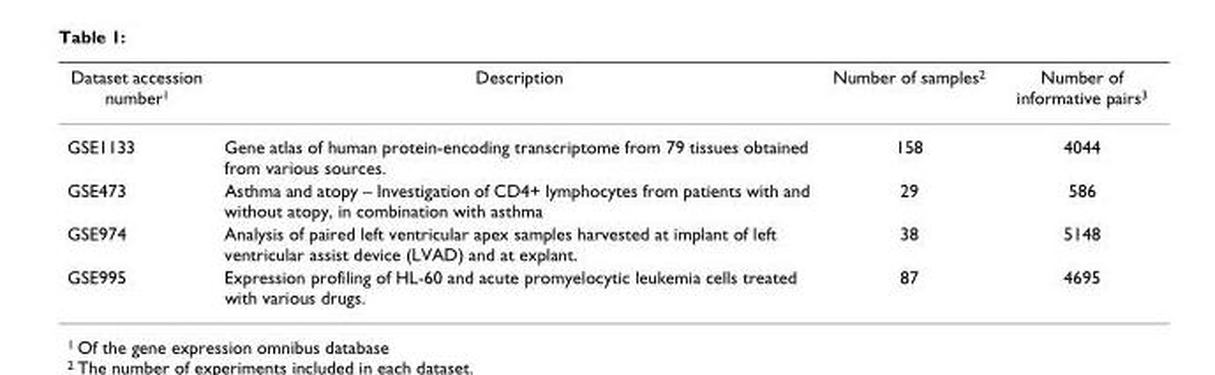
<table><thead><tr><td>Dataset accession number1</td><td>Description</td><td>Number of samples2</td><td>Number of informative pairs3</td></tr></thead><tbody><tr><td>GSE1133</td><td>Gene atlas of human protein-encoding transcriptome from 79 tissues obtained from various sources.</td><td>158</td><td>4044</td></tr><tr><td>GSE473</td><td>Asthma and atopy – Investigation of CD4+ lymphocytes from patients with and without atopy, in combination with asthma</td><td>29</td><td>586</td></tr><tr><td>GSE974</td><td>Analysis of paired left ventricular apex samples harvested at implant of left ventricular assist device (LVAD) and at explant.</td><td>38</td><td>5148</td></tr><tr><td>GSE995</td><td>Expression profiling of HL-60 and acute promyelocytic leukemia cells treated with various drugs.</td><td>87</td><td>4695</td></tr></tbody></table>